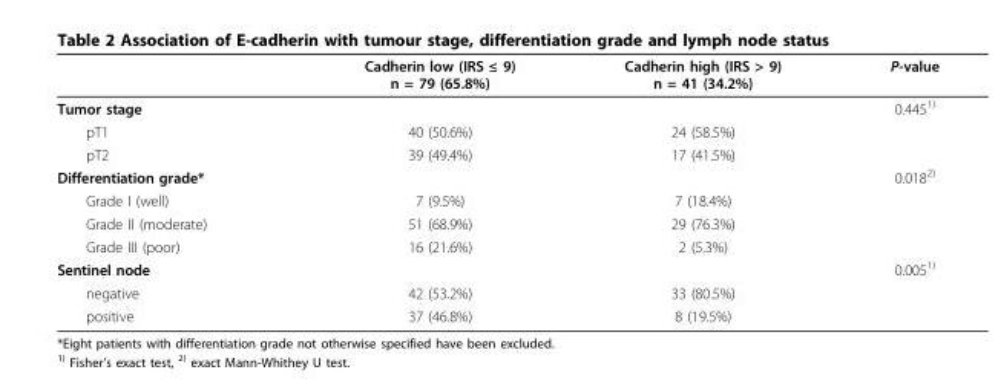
<table><thead><tr><td></td><td>Cadherin low (IRS ≤ 9) n = 79 (65.8%)</td><td>Cadherin high (IRS &gt; 9) n = 41 (34.2%)</td><td>P-value</td></tr></thead><tbody><tr><td>Tumor stage</td><td></td><td></td><td>0.445<sup>1)</sup></td></tr><tr><td>pT1</td><td>40 (50.6%)</td><td>24 (58.5%)</td><td></td></tr><tr><td>pT2</td><td>39 (49.4%)</td><td>17 (41.5%)</td><td></td></tr><tr><td>Differentiation grade*</td><td></td><td></td><td>0.018<sup>2)</sup></td></tr><tr><td>Grade I (well)</td><td>7 (9.5%)</td><td>7 (18.4%)</td><td></td></tr><tr><td>Grade II (moderate)</td><td>51 (68.9%)</td><td>29 (76.3%)</td><td></td></tr><tr><td>Grade III (poor)</td><td>16 (21.6%)</td><td>2 (5.3%)</td><td></td></tr><tr><td>Sentinel node</td><td></td><td></td><td>0.005<sup>1)</sup></td></tr><tr><td>negative</td><td>42 (53.2%)</td><td>33 (80.5%)</td><td></td></tr><tr><td>positive</td><td>37 (46.8%)</td><td>8 (19.5%)</td><td></td></tr></tbody></table>